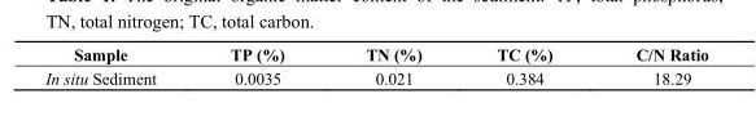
<table><thead><tr><td>Sample</td><td>TP (%)</td><td>TN (%)</td><td>TC (%)</td><td>C/N Ratio</td></tr></thead><tbody><tr><td>In situ Sediment</td><td>0.0035</td><td>0.021</td><td>0.384</td><td>18.29</td></tr></tbody></table>